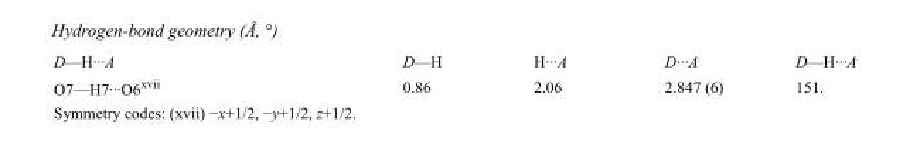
<table><tbody><tr><td>D—H···A</td><td>D—H</td><td>H···A</td><td>D···A</td><td>D—H···A</td></tr><tr><td>O7—H7···O6<sup>xvii</sup></td><td>0.86</td><td>2.06</td><td>2.847 (6)</td><td>151.</td></tr></tbody></table>